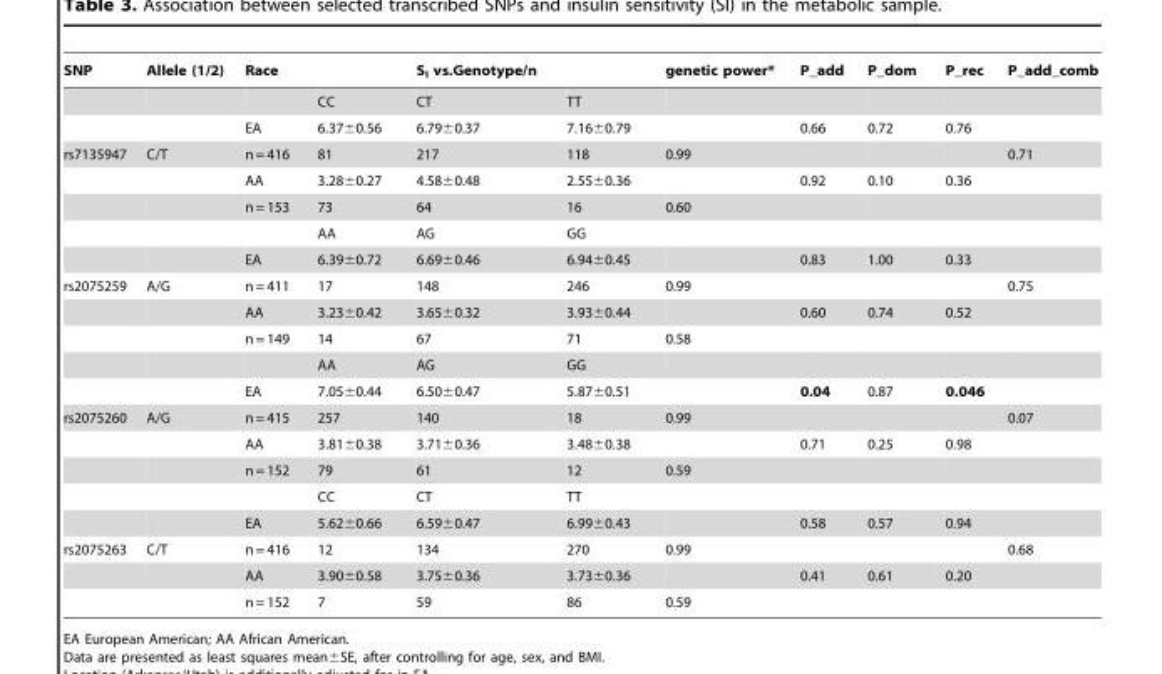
<table><thead><tr><td>SNP</td><td>Allele (1/2)</td><td>Race</td><td></td><td>S<sub>I</sub> vs.Genotype/n</td><td></td><td>genetic power*</td><td>P_add</td><td>P_dom</td><td>P_rec</td><td>P_add_comb</td></tr></thead><tbody><tr><td></td><td></td><td></td><td>CC</td><td>CT</td><td>TT</td><td></td><td></td><td></td><td></td><td></td></tr><tr><td></td><td></td><td>EA</td><td>6.37±0.56</td><td>6.79±0.37</td><td>7.16±0.79</td><td></td><td>0.66</td><td>0.72</td><td>0.76</td><td></td></tr><tr><td rowspan="5">rs7135947</td><td>C/T</td><td>n = 416</td><td>81</td><td>217</td><td>118</td><td>0.99</td><td></td><td></td><td></td><td>0.71</td></tr><tr><td></td><td>AA</td><td>3.28±0.27</td><td>4.58±0.48</td><td>2.55±0.36</td><td></td><td>0.92</td><td>0.10</td><td>0.36</td><td></td></tr><tr><td></td><td>n = 153</td><td>73</td><td>64</td><td>16</td><td>0.60</td><td></td><td></td><td></td><td></td></tr><tr><td></td><td></td><td>AA</td><td>AG</td><td>GG</td><td></td><td></td><td></td><td></td><td></td></tr><tr><td></td><td>EA</td><td>6.39±0.72</td><td>6.69±0.46</td><td>6.94±0.45</td><td></td><td>0.83</td><td>1.00</td><td>0.33</td><td></td></tr><tr><td rowspan="5">rs2075259</td><td>A/G</td><td>n = 411</td><td>17</td><td>148</td><td>246</td><td>0.99</td><td></td><td></td><td></td><td>0.75</td></tr><tr><td></td><td>AA</td><td>3.23±0.42</td><td>3.65±0.32</td><td>3.93±0.44</td><td></td><td>0.60</td><td>0.74</td><td>0.52</td><td></td></tr><tr><td></td><td>n = 149</td><td>14</td><td>67</td><td>71</td><td>0.58</td><td></td><td></td><td></td><td></td></tr><tr><td></td><td></td><td>AA</td><td>AG</td><td>GG</td><td></td><td></td><td></td><td></td><td></td></tr><tr><td></td><td>EA</td><td>7.05±0.44</td><td>6.50±0.47</td><td>5.87±0.51</td><td></td><td>0.04</td><td>0.87</td><td>0.046</td><td></td></tr><tr><td rowspan="5">rs2075260</td><td>A/G</td><td>n = 415</td><td>257</td><td>140</td><td>18</td><td>0.99</td><td></td><td></td><td></td><td>0.07</td></tr><tr><td></td><td>AA</td><td>3.81±0.38</td><td>3.71±0.36</td><td>3.48±0.38</td><td></td><td>0.71</td><td>0.25</td><td>0.98</td><td></td></tr><tr><td></td><td>n = 152</td><td>79</td><td>61</td><td>12</td><td>0.59</td><td></td><td></td><td></td><td></td></tr><tr><td></td><td></td><td>CC</td><td>CT</td><td>TT</td><td></td><td></td><td></td><td></td><td></td></tr><tr><td></td><td>EA</td><td>5.62±0.66</td><td>6.59±0.47</td><td>6.99±0.43</td><td></td><td>0.58</td><td>0.57</td><td>0.94</td><td></td></tr><tr><td rowspan="3">rs2075263</td><td>C/T</td><td>n = 416</td><td>12</td><td>134</td><td>270</td><td>0.99</td><td></td><td></td><td></td><td>0.68</td></tr><tr><td></td><td>AA</td><td>3.90±0.58</td><td>3.75±0.36</td><td>3.73±0.36</td><td></td><td>0.41</td><td>0.61</td><td>0.20</td><td></td></tr><tr><td></td><td>n = 152</td><td>7</td><td>59</td><td>86</td><td>0.59</td><td></td><td></td><td></td><td></td></tr></tbody></table>